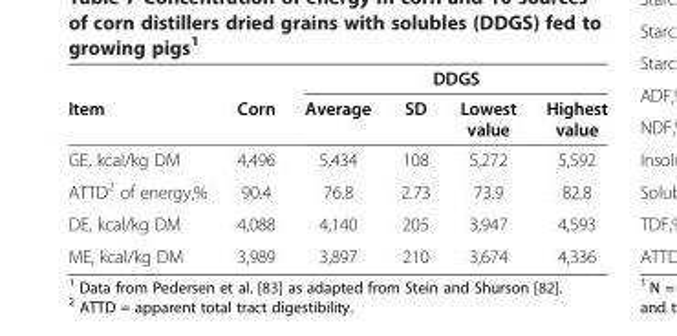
<table><thead><tr><td rowspan="2">Item</td><td rowspan="2">Corn</td><td colspan="4">DDGS</td></tr><tr><td>Average</td><td>SD</td><td>Lowest value</td><td>Highest value</td></tr></thead><tbody><tr><td>GE, kcal/kg DM</td><td>4,496</td><td>5,434</td><td>108</td><td>5,272</td><td>5,592</td></tr><tr><td>ATTD<sup>2</sup> of energy,%</td><td>90.4</td><td>76.8</td><td>2.73</td><td>73.9</td><td>82.8</td></tr><tr><td>DE, kcal/kg DM</td><td>4,088</td><td>4,140</td><td>205</td><td>3,947</td><td>4,593</td></tr><tr><td>ME, kcal/kg DM</td><td>3,989</td><td>3,897</td><td>210</td><td>3,674</td><td>4,336</td></tr></tbody></table>